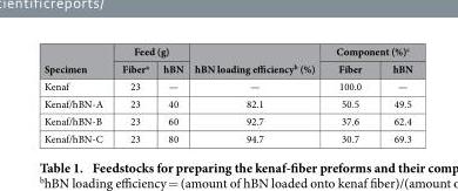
<table><thead><tr><td rowspan="2">Specimen</td><td colspan="2">Feed (g)</td><td rowspan="2">hBN loading efficiency<sup>b</sup> (%)</td><td colspan="2">Component (%)<sup>c</sup></td></tr><tr><td>Fiber<sup>a</sup></td><td>hBN</td><td>Fiber</td><td>hBN</td></tr></thead><tbody><tr><td>Kenaf</td><td>23</td><td>—</td><td>—</td><td>100.0</td><td>—</td></tr><tr><td>Kenaf/hBN-A</td><td>23</td><td>40</td><td>82.1</td><td>50.5</td><td>49.5</td></tr><tr><td>Kenaf/hBN-B</td><td>23</td><td>60</td><td>92.7</td><td>37.6</td><td>62.4</td></tr><tr><td>Kenaf/hBN-C</td><td>23</td><td>80</td><td>94.7</td><td>30.7</td><td>69.3</td></tr></tbody></table>